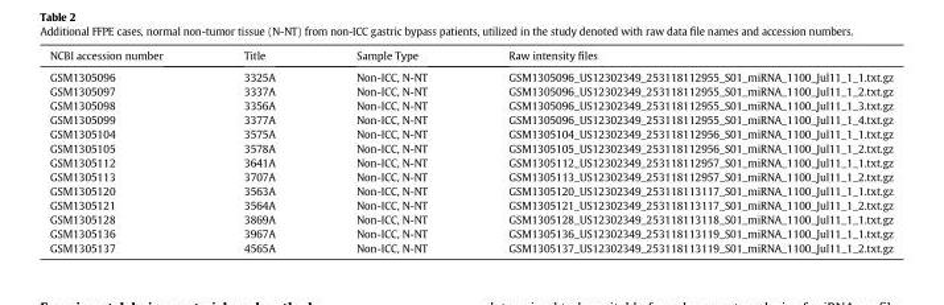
<table><thead><tr><td>NCBI accession number</td><td>Title</td><td>Sample Type</td><td>Raw intensity files</td></tr></thead><tbody><tr><td>GSM1305096</td><td>3325A</td><td>Non-ICC, N-NT</td><td>GSM1305096_US12302349_253118112955_S01_miRNA_1100_Jul11_1_1.txt.gz</td></tr><tr><td>GSM1305097</td><td>3337A</td><td>Non-ICC, N-NT</td><td>GSM1305096_US12302349_253118112955_S01_miRNA_1100_Jul11_1_2.txt.gz</td></tr><tr><td>GSM1305098</td><td>3356A</td><td>Non-ICC, N-NT</td><td>GSM1305096_US12302349_253118112955_S01_miRNA_1100_Jul11_1_3.txt.gz</td></tr><tr><td>GSM1305099</td><td>3377A</td><td>Non-ICC, N-NT</td><td>GSM1305096_US12302349_253118112955_S01_miRNA_1100_Jul11_1_4.txt.gz</td></tr><tr><td>GSM1305104</td><td>3575A</td><td>Non-ICC, N-NT</td><td>GSM1305104_US12302349_253118112956_S01_miRNA_1100_Jul11_1_1.txt.gz</td></tr><tr><td>GSM1305105</td><td>3578A</td><td>Non-ICC, N-NT</td><td>GSM1305105_US12302349_253118112956_S01_miRNA_1100_Jul11_1_2.txt.gz</td></tr><tr><td>GSM1305112</td><td>3641A</td><td>Non-ICC, N-NT</td><td>GSM1305112_US12302349_253118112957_S01_miRNA_1100_Jul11_1_1.txt.gz</td></tr><tr><td>GSM1305113</td><td>3707A</td><td>Non-ICC, N-NT</td><td>GSM1305113_US12302349_253118112957_S01_miRNA_1100_Jul11_1_2.txt.gz</td></tr><tr><td>GSM1305120</td><td>3563A</td><td>Non-ICC, N-NT</td><td>GSM1305120_US12302349_253118113117_S01_miRNA_1100_Jul11_1_1.txt.gz</td></tr><tr><td>GSM1305121</td><td>3564A</td><td>Non-ICC, N-NT</td><td>GSM1305121_US12302349_253118113117_S01_miRNA_1100_Jul11_1_2.txt.gz</td></tr><tr><td>GSM1305128</td><td>3869A</td><td>Non-ICC, N-NT</td><td>GSM1305128_US12302349_253118113118_S01_miRNA_1100_Jul11_1_1.txt.gz</td></tr><tr><td>GSM1305136</td><td>3967A</td><td>Non-ICC, N-NT</td><td>GSM1305136_US12302349_253118113119_S01_miRNA_1100_Jul11_1_1.txt.gz</td></tr><tr><td>GSM1305137</td><td>4565A</td><td>Non-ICC, N-NT</td><td>GSM1305137_US12302349_253118113119_S01_miRNA_1100_Jul11_1_2.txt.gz</td></tr></tbody></table>